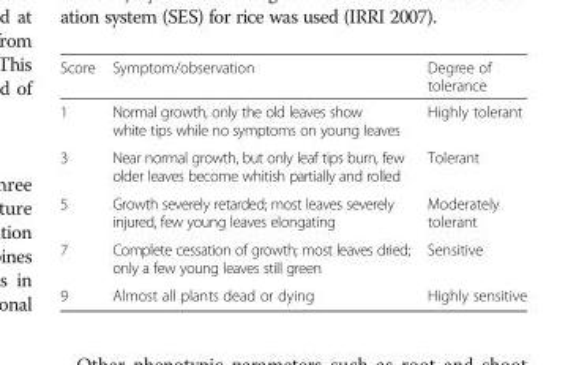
<table><thead><tr><td>Score</td><td>Symptom/observation</td><td>Degree of tolerance</td></tr></thead><tbody><tr><td>1</td><td>Normal growth, only the old leaves show white tips while no symptoms on young leaves</td><td>Highly tolerant</td></tr><tr><td>3</td><td>Near normal growth, but only leaf tips burn, few older leaves become whitish partially and rolled</td><td>Tolerant</td></tr><tr><td>5</td><td>Growth severely retarded; most leaves severely injured, few young leaves elongating</td><td>Moderately tolerant</td></tr><tr><td>7</td><td>Complete cessation of growth; most leaves dried; only a few young leaves still green</td><td>Sensitive</td></tr><tr><td>9</td><td>Almost all plants dead or dying</td><td>Highly sensitive</td></tr></tbody></table>